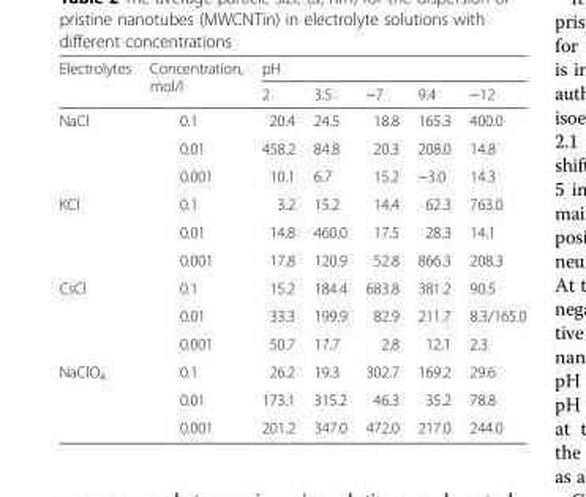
<table><thead><tr><td rowspan="2">Electrolytes</td><td rowspan="2">Concentration, mol/l</td><td colspan="5">pH</td></tr><tr><td>2</td><td>3.5</td><td>~7</td><td>9.4</td><td>~12</td></tr></thead><tbody><tr><td rowspan="3">NaCl</td><td>0.1</td><td>20.4</td><td>24.5</td><td>18.8</td><td>165.3</td><td>400.0</td></tr><tr><td>0.01</td><td>458.2</td><td>84.8</td><td>20.3</td><td>208.0</td><td>14.8</td></tr><tr><td>0.001</td><td>10.1</td><td>6.7</td><td>15.2</td><td>~3.0</td><td>14.3</td></tr><tr><td rowspan="3">KCl</td><td>0.1</td><td>3.2</td><td>15.2</td><td>14.4</td><td>62.3</td><td>763.0</td></tr><tr><td>0.01</td><td>14.8</td><td>460.0</td><td>17.5</td><td>28.3</td><td>14.1</td></tr><tr><td>0.001</td><td>17.8</td><td>120.9</td><td>52.8</td><td>866.3</td><td>208.3</td></tr><tr><td rowspan="3">CsCl</td><td>0.1</td><td>15.2</td><td>184.4</td><td>683.8</td><td>381.2</td><td>90.5</td></tr><tr><td>0.01</td><td>33.3</td><td>199.9</td><td>82.9</td><td>211.7</td><td>8.3/165.0</td></tr><tr><td>0.001</td><td>50.7</td><td>17.7</td><td>2.8</td><td>12.1</td><td>2.3</td></tr><tr><td rowspan="3">NaClO<sub>4</sub></td><td>0.1</td><td>26.2</td><td>19.3</td><td>302.7</td><td>169.2</td><td>29.6</td></tr><tr><td>0.01</td><td>173.1</td><td>315.2</td><td>46.3</td><td>35.2</td><td>78.8</td></tr><tr><td>0.001</td><td>201.2</td><td>347.0</td><td>472.0</td><td>217.0</td><td>244.0</td></tr></tbody></table>